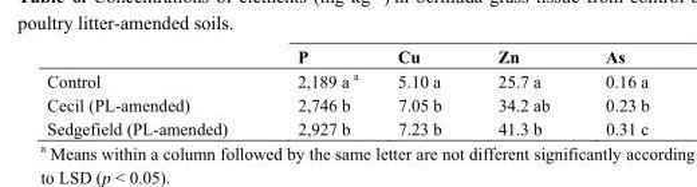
<table><thead><tr><td></td><td>P</td><td>Cu</td><td>Zn</td><td>As</td></tr></thead><tbody><tr><td>Control</td><td>2,189 a <sup>a</sup></td><td>5.10 a</td><td>25.7 a</td><td>0.16 a</td></tr><tr><td>Cecil (PL-amended)</td><td>2,746 b</td><td>7.05 b</td><td>34.2 ab</td><td>0.23 b</td></tr><tr><td>Sedgefield (PL-amended)</td><td>2,927 b</td><td>7.23 b</td><td>41.3 b</td><td>0.31 c</td></tr></tbody></table>